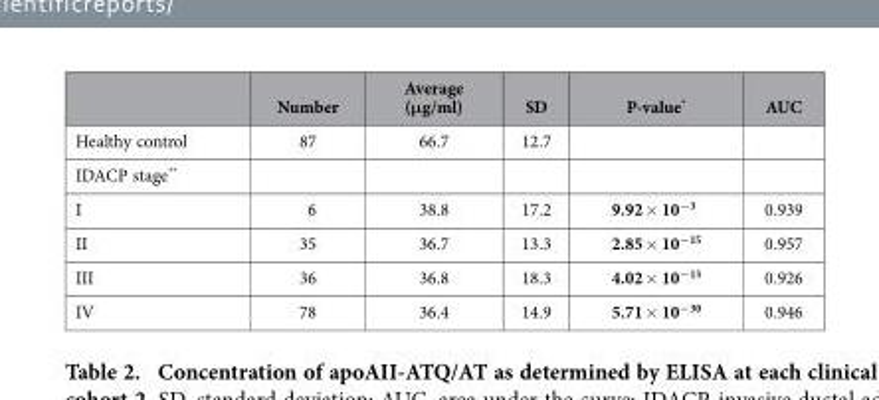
<table><thead><tr><td></td><td>Number</td><td>Average (μg/ml)</td><td>SD</td><td>P-value*</td><td>AUC</td></tr></thead><tbody><tr><td>Healthy control</td><td>87</td><td>66.7</td><td>12.7</td><td></td><td></td></tr><tr><td colspan="6">IDACP stage**</td></tr><tr><td>I</td><td>6</td><td>38.8</td><td>17.2</td><td>9.92 × 10<sup>−3</sup></td><td>0.939</td></tr><tr><td>II</td><td>35</td><td>36.7</td><td>13.3</td><td>2.85 × 10<sup>−15</sup></td><td>0.957</td></tr><tr><td>III</td><td>36</td><td>36.8</td><td>18.3</td><td>4.02 × 10<sup>−13</sup></td><td>0.926</td></tr><tr><td>IV</td><td>78</td><td>36.4</td><td>14.9</td><td>5.71 × 10<sup>−30</sup></td><td>0.946</td></tr></tbody></table>